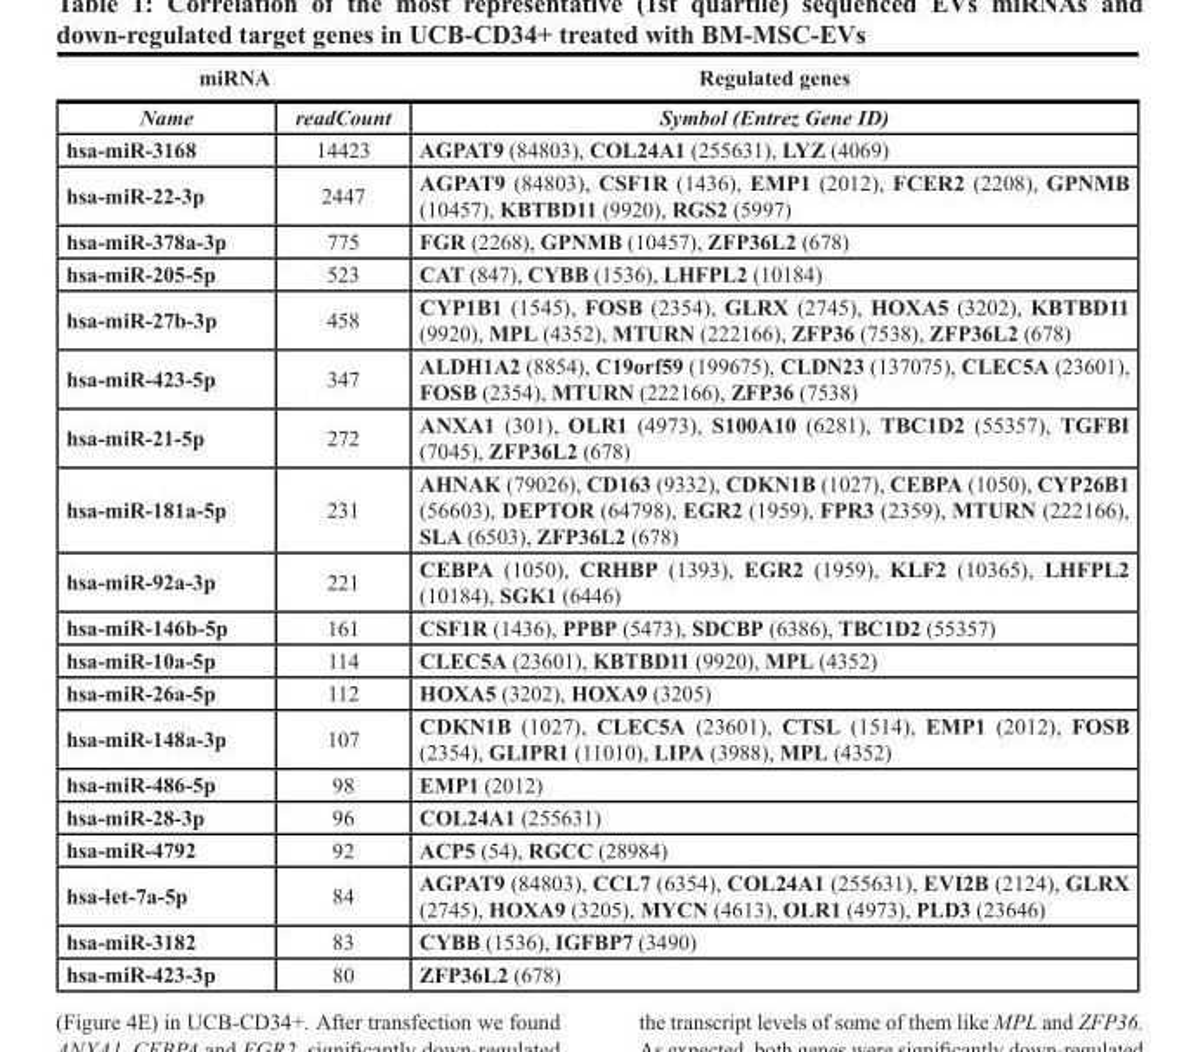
<table><thead><tr><td colspan="2">miRNA</td><td rowspan="2">Regulated genes Symbol (Entrez Gene ID)</td></tr><tr><td>Name</td><td>readCount</td></tr></thead><tbody><tr><td>hsa-miR-3168</td><td>14423</td><td>AGPAT9 (84803), COL24A1 (255631), LYZ (4069)</td></tr><tr><td>hsa-miR-22-3p</td><td>2447</td><td>AGPAT9 (84803), CSF1R (1436), EMP1 (2012), FCER2 (2208), GPNMB (10457), KBTBD11 (9920), RGS2 (5997)</td></tr><tr><td>hsa-miR-378a-3p</td><td>775</td><td>FGR (2268), GPNMB (10457), ZFP36L2 (678)</td></tr><tr><td>hsa-miR-205-5p</td><td>523</td><td>CAT (847), CYBB (1536), LHFPL2 (10184)</td></tr><tr><td>hsa-miR-27b-3p</td><td>458</td><td>CYP1B1 (1545), FOSB (2354), GLRX (2745), HOXA5 (3202), KBTBD11 (9920), MPL (4352), MTURN (222166), ZFP36 (7538), ZFP36L2 (678)</td></tr><tr><td>hsa-miR-423-5p</td><td>347</td><td>ALDH1A2 (8854), C19orf59 (199675), CLDN23 (137075), CLEC5A (23601), FOSB (2354), MTURN (222166), ZFP36 (7538)</td></tr><tr><td>hsa-miR-21-5p</td><td>272</td><td>ANXA1 (301), OLR1 (4973), S100A10 (6281), TBC1D2 (55357), TGFBI (7045), ZFP36L2 (678)</td></tr><tr><td>hsa-miR-181a-5p</td><td>231</td><td>AHNAK (79026), CD163 (9332), CDKN1B (1027), CEBPA (1050), CYP26B1 (56603), DEPTOR (64798), EGR2 (1959), FPR3 (2359), MTURN (222166), SLA (6503), ZFP36L2 (678)</td></tr><tr><td>hsa-miR-92a-3p</td><td>221</td><td>CEBPA (1050), CRHBP (1393), EGR2 (1959), KLF2 (10365), LHFPL2 (10184), SGK1 (6446)</td></tr><tr><td>hsa-miR-146b-5p</td><td>161</td><td>CSF1R (1436), PPBP (5473), SDCBP (6386), TBC1D2 (55357)</td></tr><tr><td>hsa-miR-10a-5p</td><td>114</td><td>CLEC5A (23601), KBTBD11 (9920), MPL (4352)</td></tr><tr><td>hsa-miR-26a-5p</td><td>112</td><td>HOXA5 (3202), HOXA9 (3205)</td></tr><tr><td>hsa-miR-148a-3p</td><td>107</td><td>CDKN1B (1027), CLEC5A (23601), CTSL (1514), EMP1 (2012), FOSB (2354), GLIPR1 (11010), LIPA (3988), MPL (4352)</td></tr><tr><td>hsa-miR-486-5p</td><td>98</td><td>EMP1 (2012)</td></tr><tr><td>hsa-miR-28-3p</td><td>96</td><td>COL24A1 (255631)</td></tr><tr><td>hsa-miR-4792</td><td>92</td><td>ACP5 (54), RGCC (28984)</td></tr><tr><td>hsa-let-7a-5p</td><td>84</td><td>AGPAT9 (84803), CCL7 (6354), COL24A1 (255631), EVI2B (2124), GLRX (2745), HOXA9 (3205), MYCN (4613), OLR1 (4973), PLD3 (23646)</td></tr><tr><td>hsa-miR-3182</td><td>83</td><td>CYBB (1536), IGFBP7 (3490)</td></tr><tr><td>hsa-miR-423-3p</td><td>80</td><td>ZFP36L2 (678)</td></tr></tbody></table>